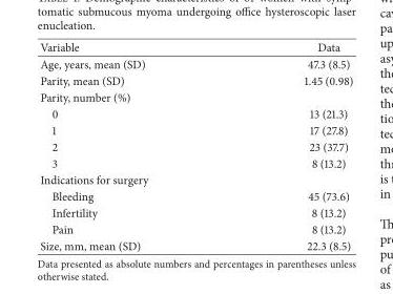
<table><thead><tr><td>Variable</td><td>Data</td></tr></thead><tbody><tr><td>Age, years, mean (SD)</td><td>47.3 (8.5)</td></tr><tr><td>Parity, mean (SD)</td><td>1.45 (0.98)</td></tr><tr><td colspan="2">Parity, number (%)</td></tr><tr><td>0</td><td>13 (21.3)</td></tr><tr><td>1</td><td>17 (27.8)</td></tr><tr><td>2</td><td>23 (37.7)</td></tr><tr><td>3</td><td>8 (13.2)</td></tr><tr><td colspan="2">Indications for surgery</td></tr><tr><td>Bleeding</td><td>45 (73.6)</td></tr><tr><td>Infertility</td><td>8 (13.2)</td></tr><tr><td>Pain</td><td>8 (13.2)</td></tr><tr><td>Size, mm, mean (SD)</td><td>22.3 (8.5)</td></tr></tbody></table>